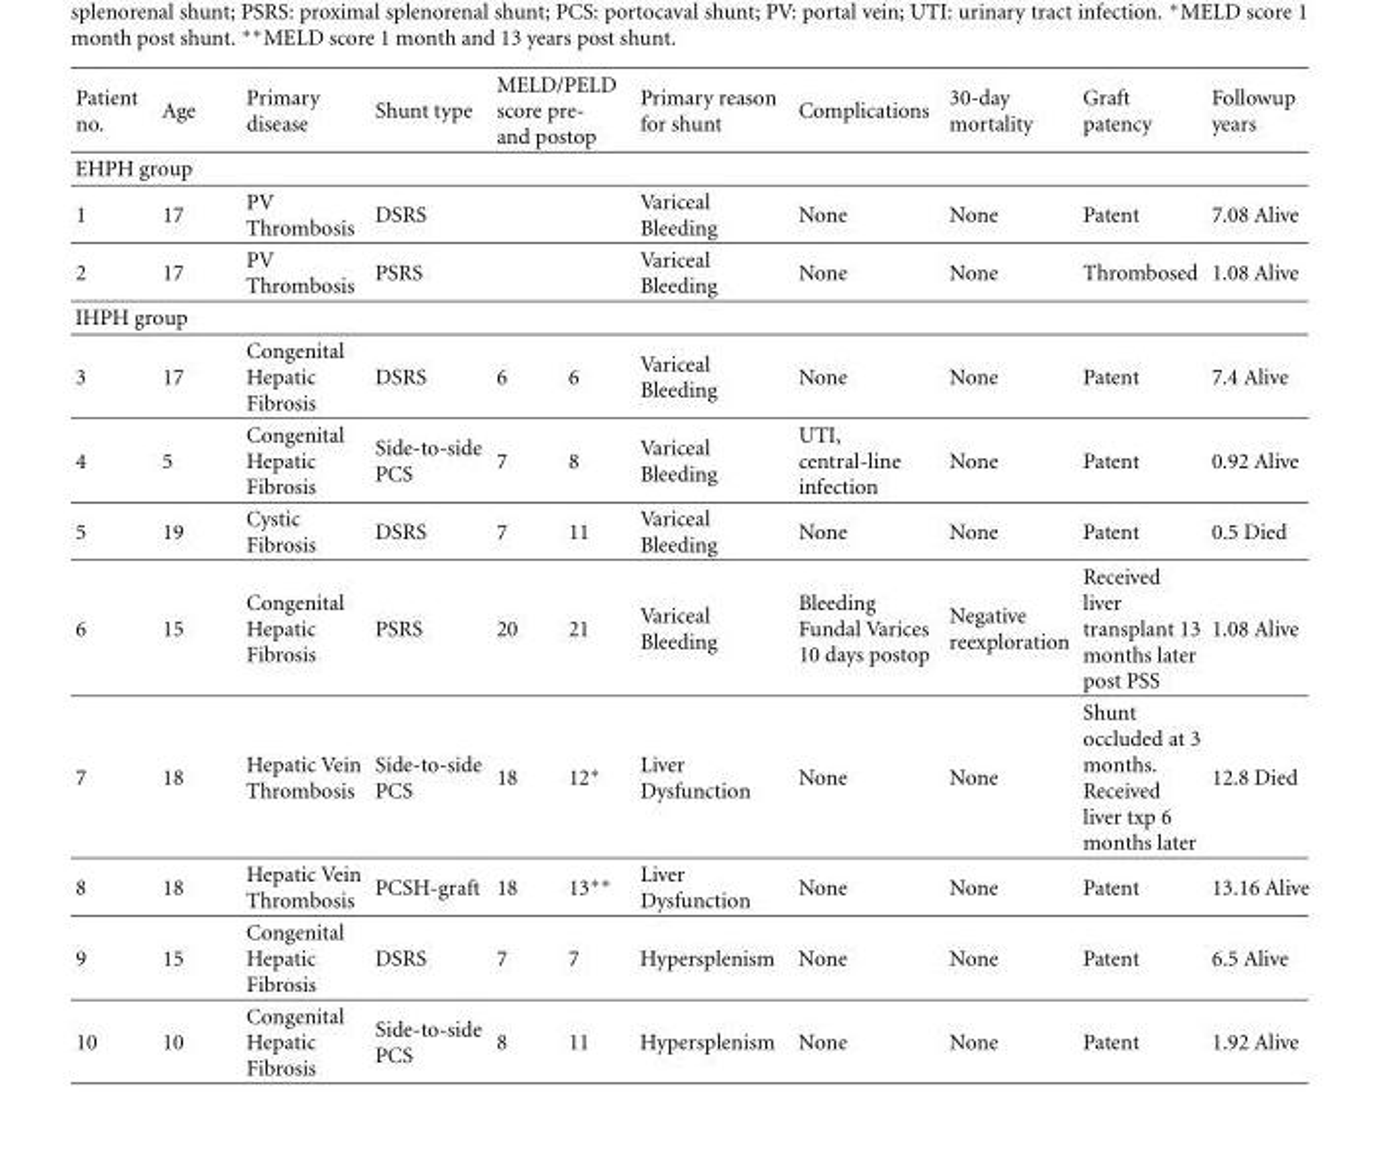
<table><thead><tr><td>Patient no.</td><td>Age</td><td rowspan="2">Primary disease</td><td rowspan="2">Shunt type</td><td colspan="2">MELD/PELD score pre- and postop</td><td rowspan="2">Primary reason for shunt</td><td rowspan="2">Complications</td><td rowspan="2">30-day mortality</td><td rowspan="2">Graft patency</td><td rowspan="2">Followup years</td></tr><tr><td colspan="2">EHPH group</td><td></td><td></td></tr></thead><tbody><tr><td>1</td><td>17</td><td>PV Thrombosis</td><td>DSRS</td><td></td><td></td><td>Variceal Bleeding</td><td>None</td><td>None</td><td>Patent</td><td>7.08 Alive</td></tr><tr><td>2</td><td>17</td><td>PV Thrombosis</td><td>PSRS</td><td></td><td></td><td>Variceal Bleeding</td><td>None</td><td>None</td><td>Thrombosed</td><td>1.08 Alive</td></tr><tr><td colspan="11">IHPH group</td></tr><tr><td>3</td><td>17</td><td>Congenital Hepatic Fibrosis</td><td>DSRS</td><td>6</td><td>6</td><td>Variceal Bleeding</td><td>None</td><td>None</td><td>Patent</td><td>7.4 Alive</td></tr><tr><td>4</td><td>5</td><td>Congenital Hepatic Fibrosis</td><td>Side-to-side PCS</td><td>7</td><td>8</td><td>Variceal Bleeding</td><td>UTI, central-line infection</td><td>None</td><td>Patent</td><td>0.92 Alive</td></tr><tr><td>5</td><td>19</td><td>Cystic Fibrosis</td><td>DSRS</td><td>7</td><td>11</td><td>Variceal Bleeding</td><td>None</td><td>None</td><td>Patent</td><td>0.5 Died</td></tr><tr><td>6</td><td>15</td><td>Congenital Hepatic Fibrosis</td><td>PSRS</td><td>20</td><td>21</td><td>Variceal Bleeding</td><td>Bleeding Fundal Varices 10 days postop</td><td>Negative reexploration</td><td>Received liver transplant 13 months later post PSS</td><td>1.08 Alive</td></tr><tr><td>7</td><td>18</td><td>Hepatic Vein Thrombosis</td><td>Side-to-side PCS</td><td>18</td><td>12∗</td><td>Liver Dysfunction</td><td>None</td><td>None</td><td>Shunt occluded at 3 months. Received liver txp 6 months later</td><td>12.8 Died</td></tr><tr><td>8</td><td>18</td><td>Hepatic Vein Thrombosis</td><td>PCSH-graft</td><td>18</td><td>13∗∗</td><td>Liver Dysfunction</td><td>None</td><td>None</td><td>Patent</td><td>13.16 Alive</td></tr><tr><td>9</td><td>15</td><td>Congenital Hepatic Fibrosis</td><td>DSRS</td><td>7</td><td>7</td><td>Hypersplenism</td><td>None</td><td>None</td><td>Patent</td><td>6.5 Alive</td></tr><tr><td>10</td><td>10</td><td>Congenital Hepatic Fibrosis</td><td>Side-to-side PCS</td><td>8</td><td>11</td><td>Hypersplenism</td><td>None</td><td>None</td><td>Patent</td><td>1.92 Alive</td></tr></tbody></table>